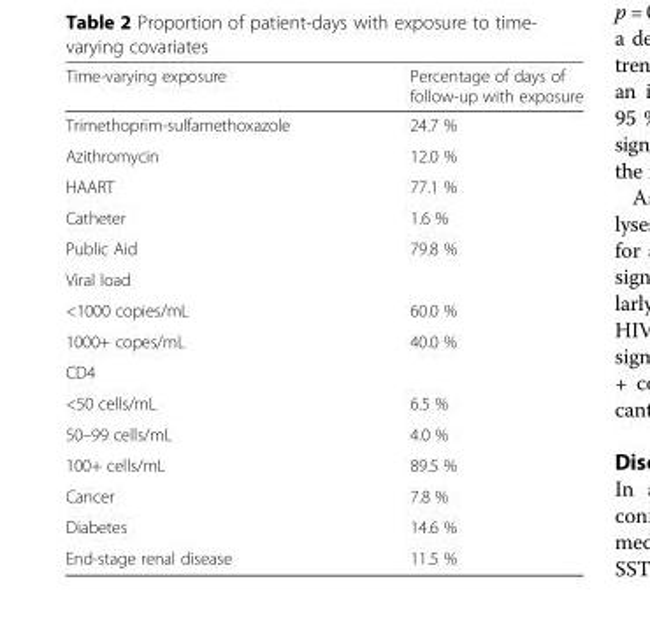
<table><thead><tr><td>Time-varying exposure</td><td>Percentage of days of follow-up with exposure</td></tr></thead><tbody><tr><td>Trimethoprim-sulfamethoxazole</td><td>24.7 %</td></tr><tr><td>Azithromycin</td><td>12.0 %</td></tr><tr><td>HAART</td><td>77.1 %</td></tr><tr><td>Catheter</td><td>1.6 %</td></tr><tr><td>Public Aid</td><td>79.8 %</td></tr><tr><td colspan="2">Viral load</td></tr><tr><td>&lt;1000 copies/mL</td><td>60.0 %</td></tr><tr><td>1000+ copes/mL</td><td>40.0 %</td></tr><tr><td colspan="2">CD4</td></tr><tr><td>&lt;50 cells/mL</td><td>6.5 %</td></tr><tr><td>50–99 cells/mL</td><td>4.0 %</td></tr><tr><td>100+ cells/mL</td><td>89.5 %</td></tr><tr><td>Cancer</td><td>7.8 %</td></tr><tr><td>Diabetes</td><td>14.6 %</td></tr><tr><td>End-stage renal disease</td><td>11.5 %</td></tr></tbody></table>